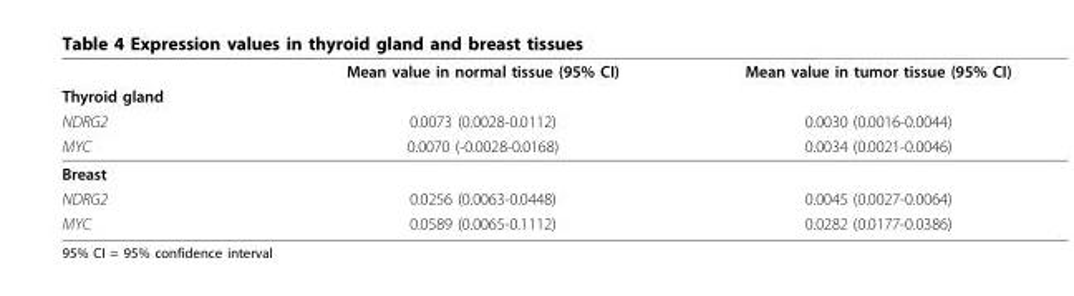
<table><thead><tr><td rowspan="4">Thyroid gland NDRG2 MYC</td><td rowspan="4">Mean value in normal tissue (95% CI) 0.0073 (0.0028-0.0112) 0.0070 (-0.0028-0.0168)</td><td rowspan="4">Mean value in tumor tissue (95% CI) 0.0030 (0.0016-0.0044) 0.0034 (0.0021-0.0046)</td></tr><tr></tr><tr></tr><tr></tr></thead><tbody><tr><td colspan="3">Breast</td></tr><tr><td>NDRG2</td><td>0.0256 (0.0063-0.0448)</td><td>0.0045 (0.0027-0.0064)</td></tr><tr><td>MYC</td><td>0.0589 (0.0065-0.1112)</td><td>0.0282 (0.0177-0.0386)</td></tr></tbody></table>